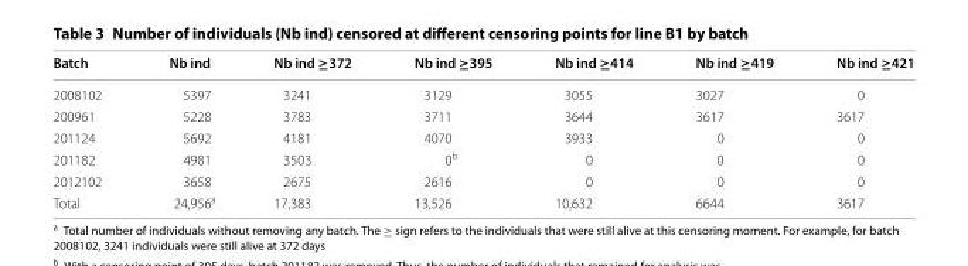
<table><thead><tr><td>Batch</td><td>Nb ind</td><td>Nb ind ≥372</td><td>Nb ind ≥395</td><td>Nb ind ≥414</td><td>Nb ind ≥419</td><td>Nb ind ≥421</td></tr></thead><tbody><tr><td>2008102</td><td>5397</td><td>3241</td><td>3129</td><td>3055</td><td>3027</td><td>0</td></tr><tr><td>200961</td><td>5228</td><td>3783</td><td>3711</td><td>3644</td><td>3617</td><td>3617</td></tr><tr><td>201124</td><td>5692</td><td>4181</td><td>4070</td><td>3933</td><td>0</td><td>0</td></tr><tr><td>201182</td><td>4981</td><td>3503</td><td>0<sup>b</sup></td><td>0</td><td>0</td><td>0</td></tr><tr><td>2012102</td><td>3658</td><td>2675</td><td>2616</td><td>0</td><td>0</td><td>0</td></tr><tr><td>Total</td><td>24,956<sup>a</sup></td><td>17,383</td><td>13,526</td><td>10,632</td><td>6644</td><td>3617</td></tr></tbody></table>